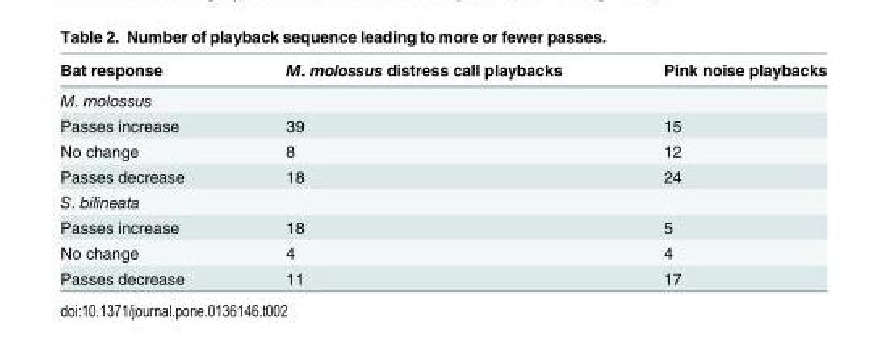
<table><thead><tr><td>Bat response</td><td>M. molossus distress call playbacks</td><td>Pink noise playbacks</td></tr></thead><tbody><tr><td colspan="3">M. molossus</td></tr><tr><td>Passes increase</td><td>39</td><td>15</td></tr><tr><td>No change</td><td>8</td><td>12</td></tr><tr><td>Passes decrease</td><td>18</td><td>24</td></tr><tr><td colspan="3">S. bilineata</td></tr><tr><td>Passes increase</td><td>18</td><td>5</td></tr><tr><td>No change</td><td>4</td><td>4</td></tr><tr><td>Passes decrease</td><td>11</td><td>17</td></tr></tbody></table>